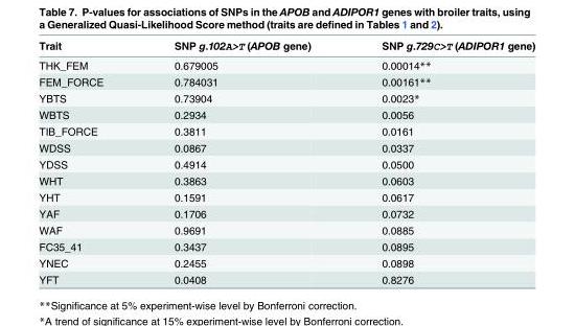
<table><thead><tr><td>Trait</td><td>SNP g.102A&gt;T (APOB gene)</td><td>SNP g.729C&gt;T (ADIPOR1 gene)</td></tr></thead><tbody><tr><td>THK_FEM</td><td>0.679005</td><td>0.00014**</td></tr><tr><td>FEM_FORCE</td><td>0.784031</td><td>0.00161**</td></tr><tr><td>YBTS</td><td>0.73904</td><td>0.0023*</td></tr><tr><td>WBTS</td><td>0.2934</td><td>0.0056</td></tr><tr><td>TIB_FORCE</td><td>0.3811</td><td>0.0161</td></tr><tr><td>WDSS</td><td>0.0867</td><td>0.0337</td></tr><tr><td>YDSS</td><td>0.4914</td><td>0.0500</td></tr><tr><td>WHT</td><td>0.3863</td><td>0.0603</td></tr><tr><td>YHT</td><td>0.1591</td><td>0.0617</td></tr><tr><td>YAF</td><td>0.1706</td><td>0.0732</td></tr><tr><td>WAF</td><td>0.9691</td><td>0.0885</td></tr><tr><td>FC35_41</td><td>0.3437</td><td>0.0895</td></tr><tr><td>YNEC</td><td>0.2455</td><td>0.0898</td></tr><tr><td>YFT</td><td>0.0408</td><td>0.8276</td></tr></tbody></table>